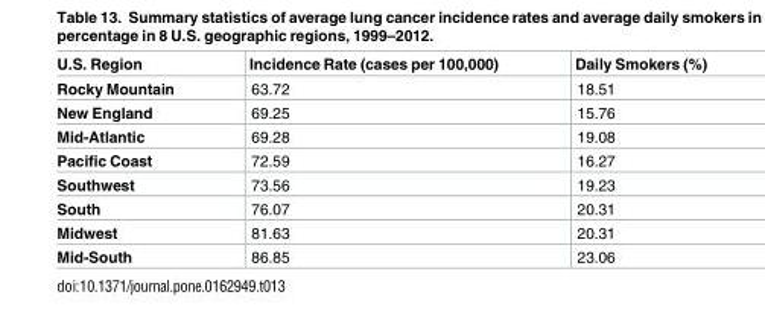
<table><thead><tr><td>U.S. Region</td><td>Incidence Rate (cases per 100,000)</td><td>Daily Smokers (%)</td></tr></thead><tbody><tr><td>Rocky Mountain</td><td>63.72</td><td>18.51</td></tr><tr><td>New England</td><td>69.25</td><td>15.76</td></tr><tr><td>Mid-Atlantic</td><td>69.28</td><td>19.08</td></tr><tr><td>Pacific Coast</td><td>72.59</td><td>16.27</td></tr><tr><td>Southwest</td><td>73.56</td><td>19.23</td></tr><tr><td>South</td><td>76.07</td><td>20.31</td></tr><tr><td>Midwest</td><td>81.63</td><td>20.31</td></tr><tr><td>Mid-South</td><td>86.85</td><td>23.06</td></tr></tbody></table>